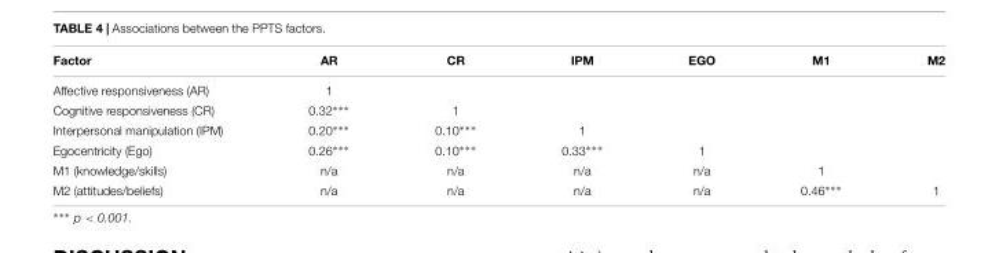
<table><thead><tr><td>Factor</td><td>AR</td><td>CR</td><td>IPM</td><td>EGO</td><td>M1</td><td>M2</td></tr></thead><tbody><tr><td>Affective responsiveness (AR)</td><td>1</td><td></td><td></td><td></td><td></td><td></td></tr><tr><td>Cognitive responsiveness (CR)</td><td>0.32∗∗∗</td><td>1</td><td></td><td></td><td></td><td></td></tr><tr><td>Interpersonal manipulation (IPM)</td><td>0.20∗∗∗</td><td>0.10∗∗∗</td><td>1</td><td></td><td></td><td></td></tr><tr><td>Egocentricity (Ego)</td><td>0.26∗∗∗</td><td>0.10∗∗∗</td><td>0.33∗∗∗</td><td>1</td><td></td><td></td></tr><tr><td>M1 (knowledge/skills)</td><td>n/a</td><td>n/a</td><td>n/a</td><td>n/a</td><td>1</td><td></td></tr><tr><td>M2 (attitudes/beliefs)</td><td>n/a</td><td>n/a</td><td>n/a</td><td>n/a</td><td>0.46∗∗∗</td><td>1</td></tr></tbody></table>